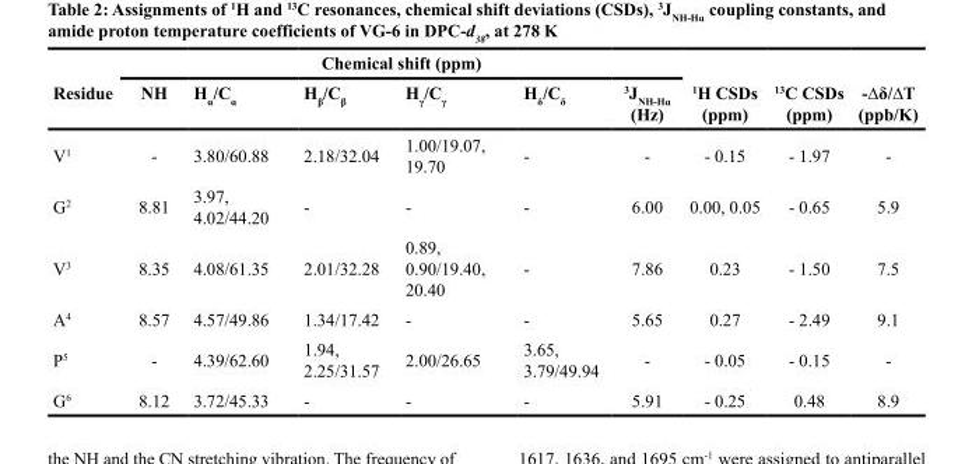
<table><thead><tr><td rowspan="2">Residue</td><td colspan="6">Chemical shift (ppm)</td><td rowspan="2"><sup>1</sup>H CSDs (ppm)</td><td rowspan="2"><sup>13</sup>C CSDs (ppm)</td><td rowspan="2">-∆δ/∆T (ppb/K)</td></tr><tr><td>NH</td><td>H<sub>ɑ</sub>/C<sub>ɑ</sub></td><td>H<sub>β</sub>/C<sub>β</sub></td><td>H<sub>γ</sub>/C<sub>γ</sub></td><td>H<sub>δ</sub>/C<sub>δ</sub></td><td><sup>3</sup>J<sub>NH-Hɑ</sub> (Hz)</td></tr></thead><tbody><tr><td>V<sup>1</sup></td><td>-</td><td>3.80/60.88</td><td>2.18/32.04</td><td>1.00/19.07, 19.70</td><td>-</td><td>-</td><td>- 0.15</td><td>- 1.97</td><td>-</td></tr><tr><td>G<sup>2</sup></td><td>8.81</td><td>3.97, 4.02/44.20</td><td>-</td><td>-</td><td>-</td><td>6.00</td><td>0.00, 0.05</td><td>- 0.65</td><td>5.9</td></tr><tr><td>V<sup>3</sup></td><td>8.35</td><td>4.08/61.35</td><td>2.01/32.28</td><td>0.89, 0.90/19.40, 20.40</td><td>-</td><td>7.86</td><td>0.23</td><td>- 1.50</td><td>7.5</td></tr><tr><td>A<sup>4</sup></td><td>8.57</td><td>4.57/49.86</td><td>1.34/17.42</td><td>-</td><td>-</td><td>5.65</td><td>0.27</td><td>- 2.49</td><td>9.1</td></tr><tr><td>P<sup>5</sup></td><td>-</td><td>4.39/62.60</td><td>1.94, 2.25/31.57</td><td>2.00/26.65</td><td>3.65, 3.79/49.94</td><td>-</td><td>- 0.05</td><td>- 0.15</td><td>-</td></tr><tr><td>G<sup>6</sup></td><td>8.12</td><td>3.72/45.33</td><td>-</td><td>-</td><td>-</td><td>5.91</td><td>- 0.25</td><td>0.48</td><td>8.9</td></tr></tbody></table>